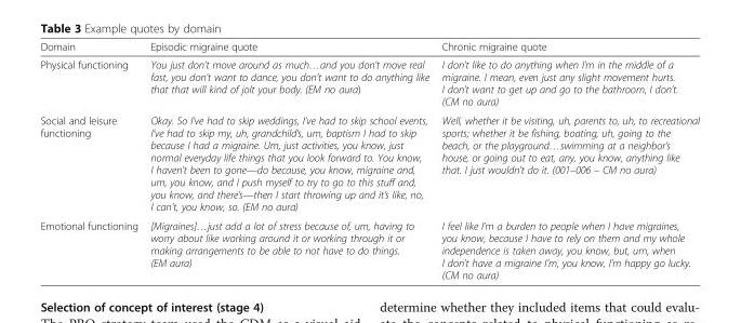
<table><thead><tr><td>Domain</td><td>Episodic migraine quote</td><td>Chronic migraine quote</td></tr></thead><tbody><tr><td>Physical functioning</td><td>You just don’t move around as much…and you don’t move real fast, you don’t want to dance, you don’t want to do anything like that that will kind of jolt your body. (EM no aura)</td><td>I don’t like to do anything when I’m in the middle of a migraine. I mean, even just any slight movement hurts. I don’t want to get up and go to the bathroom, I don’t. (CM no aura)</td></tr><tr><td>Social and leisure functioning</td><td>Okay. So I’ve had to skip weddings, I’ve had to skip school events, I’ve had to skip my, uh, grandchild’s, um, baptism I had to skip because I had a migraine. Um, just activities, you know, just normal everyday life things that you look forward to. You know, I haven’t been to gone—do because, you know, migraine and, um, you know, and I push myself to try to go to this stuff and, you know, and there’s—then I start throwing up and it’s like, no, I can’t, you know, so. (EM no aura)</td><td>Well, whether it be visiting, uh, parents to, uh, to recreational sports; whether it be fishing, boating, uh, going to the beach, or the playground…swimming at a neighbor’s house, or going out to eat, any, you know, anything like that. I just wouldn’t do it. (001–006 – CM no aura)</td></tr><tr><td>Emotional functioning</td><td>[Migraines]…just add a lot of stress because of, um, having to worry about like working around it or working through it or making arrangements to be able to not have to do things. (EM aura)</td><td>I feel like I’m a burden to people when I have migraines, you know, because I have to rely on them and my whole independence is taken away, you know, but, um, when I don’t have a migraine I’m, you know, I’m happy go lucky. (CM no aura)</td></tr></tbody></table>